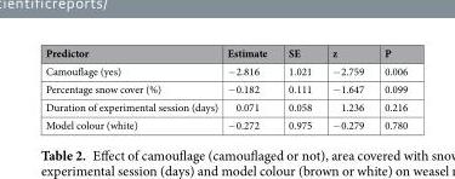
<table><thead><tr><td>Predictor</td><td>Estimate</td><td>SE</td><td>z</td><td>P</td></tr></thead><tbody><tr><td>Camouflage (yes)</td><td>−2.816</td><td>1.021</td><td>−2.759</td><td>0.006</td></tr><tr><td>Percentage snow cover (%)</td><td>−0.182</td><td>0.111</td><td>−1.647</td><td>0.099</td></tr><tr><td>Duration of experimental session (days)</td><td>0.071</td><td>0.058</td><td>1.236</td><td>0.216</td></tr><tr><td>Model colour (white)</td><td>−0.272</td><td>0.975</td><td>−0.279</td><td>0.780</td></tr></tbody></table>